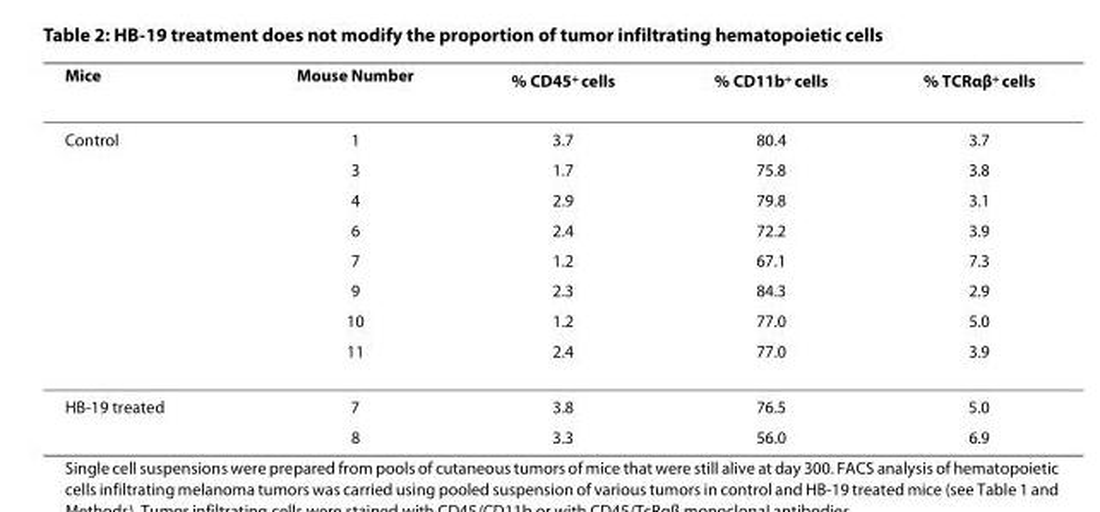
<table><thead><tr><td>Mice</td><td>Mouse Number</td><td>% CD45<sup>+</sup> cells</td><td>% CD11b<sup>+</sup> cells</td><td>% TCRαβ<sup>+</sup> cells</td></tr></thead><tbody><tr><td rowspan="8">Control</td><td>1</td><td>3.7</td><td>80.4</td><td>3.7</td></tr><tr><td>3</td><td>1.7</td><td>75.8</td><td>3.8</td></tr><tr><td>4</td><td>2.9</td><td>79.8</td><td>3.1</td></tr><tr><td>6</td><td>2.4</td><td>72.2</td><td>3.9</td></tr><tr><td>7</td><td>1.2</td><td>67.1</td><td>7.3</td></tr><tr><td>9</td><td>2.3</td><td>84.3</td><td>2.9</td></tr><tr><td>10</td><td>1.2</td><td>77.0</td><td>5.0</td></tr><tr><td>11</td><td>2.4</td><td>77.0</td><td>3.9</td></tr><tr><td rowspan="2">HB-19 treated</td><td>7</td><td>3.8</td><td>76.5</td><td>5.0</td></tr><tr><td>8</td><td>3.3</td><td>56.0</td><td>6.9</td></tr></tbody></table>